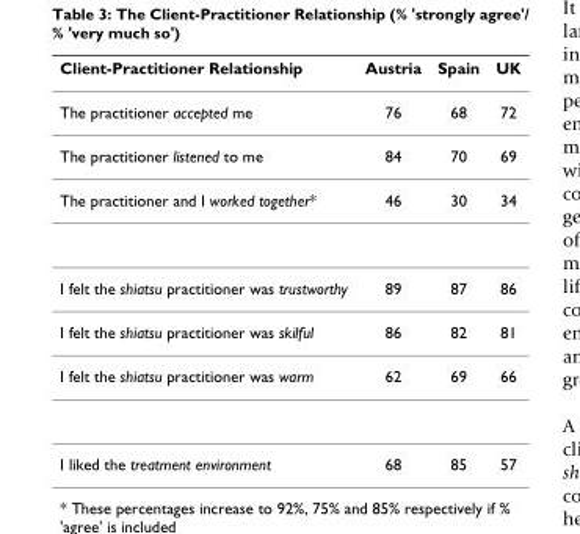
<table><thead><tr><td>Client-Practitioner Relationship</td><td>Austria</td><td>Spain</td><td>UK</td></tr></thead><tbody><tr><td>The practitioner accepted me</td><td>76</td><td>68</td><td>72</td></tr><tr><td>The practitioner listened to me</td><td>84</td><td>70</td><td>69</td></tr><tr><td>The practitioner and I worked together*</td><td>46</td><td>30</td><td>34</td></tr><tr><td>I felt the shiatsu practitioner was trustworthy</td><td>89</td><td>87</td><td>86</td></tr><tr><td>I felt the shiatsu practitioner was skilful</td><td>86</td><td>82</td><td>81</td></tr><tr><td>I felt the shiatsu practitioner was warm</td><td>62</td><td>69</td><td>66</td></tr><tr><td>I liked the treatment environment</td><td>68</td><td>85</td><td>57</td></tr></tbody></table>